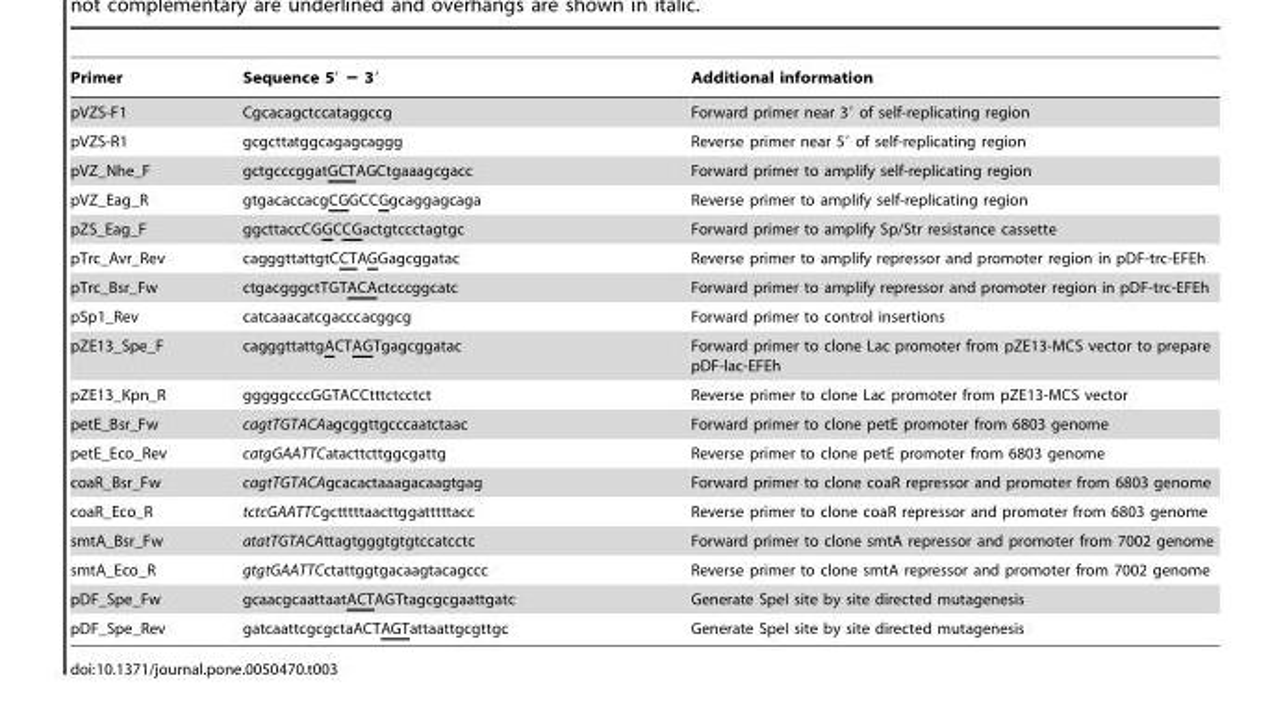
<table><thead><tr><td>Primer</td><td>Sequence 59 2 2 39</td><td>Additional information</td></tr></thead><tbody><tr><td>pVZS-F1</td><td>Cgcacagctccataggccg</td><td>Forward primer near 3′ of self-replicating region</td></tr><tr><td>pVZS-R1</td><td>gcgcttatggcagagcaggg</td><td>Reverse primer near 5′ of self-replicating region</td></tr><tr><td>pVZ_Nhe_F</td><td>gctgcccggatGCTAGCtgaaagcgacc</td><td>Forward primer to amplify self-replicating region</td></tr><tr><td>pVZ_Eag_R</td><td>gtgacaccacgCGGCCGgcaggagcaga</td><td>Reverse primer to amplify self-replicating region</td></tr><tr><td>pZS_Eag_F</td><td>ggcttaccCGGCCGactgtccctagtgc</td><td>Forward primer to amplify Sp/Str resistance cassette</td></tr><tr><td>pTrc_Avr_Rev</td><td>cagggttattgtCCTAGGagcggatac</td><td>Reverse primer to amplify repressor and promoter region in pDF-trc-EFEh</td></tr><tr><td>pTrc_Bsr_Fw</td><td>ctgacgggctTGTACActcccggcatc</td><td>Forward primer to amplify repressor and promoter region in pDF-trc-EFEh</td></tr><tr><td>pSp1_Rev</td><td>catcaaacatcgacccacggcg</td><td>Forward primer to control insertions</td></tr><tr><td>pZE13_Spe_F</td><td>cagggttattgACTAGTgagcggatac</td><td>Forward primer to clone Lac promoter from pZE13-MCS vector to prepare pDF-lac-EFEh</td></tr><tr><td>pZE13_Kpn_R</td><td>gggggcccGGTACCtttctcctct</td><td>Reverse primer to clone Lac promoter from pZE13-MCS vector</td></tr><tr><td>petE_Bsr_Fw</td><td>cagtTGTACAagcggttgcccaatctaac</td><td>Forward primer to clone petE promoter from 6803 genome</td></tr><tr><td>petE_Eco_Rev</td><td>catgGAATTCatacttcttggcgattg</td><td>Reverse primer to clone petE promoter from 6803 genome</td></tr><tr><td>coaR_Bsr_Fw</td><td>cagtTGTACAgcacactaaagacaagtgag</td><td>Forward primer to clone coaR repressor and promoter from 6803 genome</td></tr><tr><td>coaR_Eco_R</td><td>tctcGAATTCgctttttaacttggatttttacc</td><td>Reverse primer to clone coaR repressor and promoter from 6803 genome</td></tr><tr><td>smtA_Bsr_Fw</td><td>atatTGTACAttagtgggtgtgtccatcctc</td><td>Forward primer to clone smtA repressor and promoter from 7002 genome</td></tr><tr><td>smtA_Eco_R</td><td>gtgtGAATTCctattggtgacaagtacagccc</td><td>Reverse primer to clone smtA repressor and promoter from 7002 genome</td></tr><tr><td>pDF_Spe_Fw</td><td>gcaacgcaattaatACTAGTtagcgcgaattgatc</td><td>Generate SpeI site by site directed mutagenesis</td></tr><tr><td>pDF_Spe_Rev</td><td>gatcaattcgcgctaACTAGTattaattgcgttgc</td><td>Generate SpeI site by site directed mutagenesis</td></tr></tbody></table>